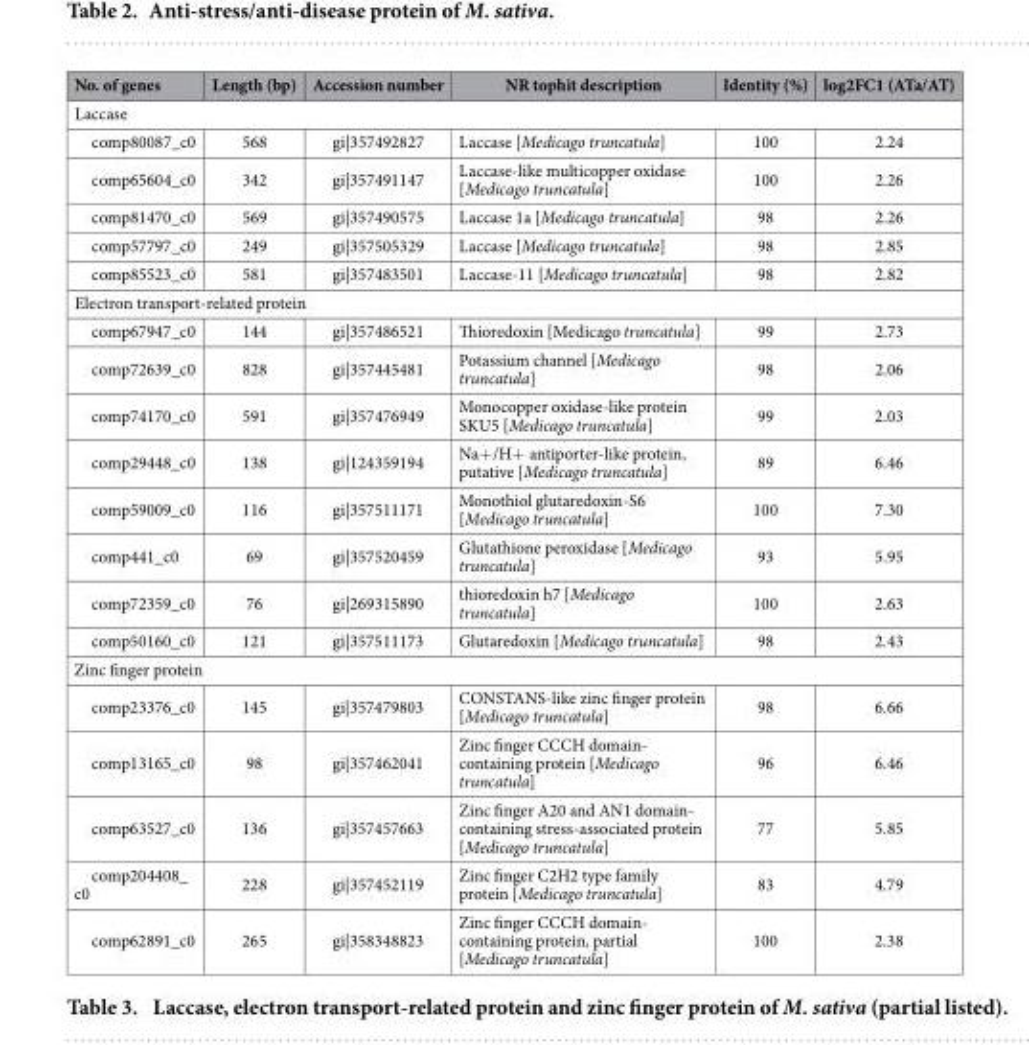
<table><thead><tr><td>No. of genes</td><td>Length (bp)</td><td>Accession number</td><td>NR tophit description</td><td>Identity (%)</td><td>log2FC1 (ATa/AT)</td></tr></thead><tbody><tr><td colspan="6">Laccase</td></tr><tr><td>comp80087_c0</td><td>568</td><td>gi|357492827</td><td>Laccase [Medicago truncatula]</td><td>100</td><td>2.24</td></tr><tr><td>comp65604_c0</td><td>342</td><td>gi|357491147</td><td>Laccase-like multicopper oxidase [Medicago truncatula]</td><td>100</td><td>2.26</td></tr><tr><td>comp81470_c0</td><td>569</td><td>gi|357490575</td><td>Laccase 1a [Medicago truncatula]</td><td>98</td><td>2.26</td></tr><tr><td>comp57797_c0</td><td>249</td><td>gi|357505329</td><td>Laccase [Medicago truncatula]</td><td>98</td><td>2.85</td></tr><tr><td>comp85523_c0</td><td>581</td><td>gi|357483501</td><td>Laccase-11 [Medicago truncatula]</td><td>98</td><td>2.82</td></tr><tr><td colspan="6">Electron transport-related protein</td></tr><tr><td>comp67947_c0</td><td>144</td><td>gi|357486521</td><td>Thioredoxin [Medicago truncatula]</td><td>99</td><td>2.73</td></tr><tr><td>comp72639_c0</td><td>828</td><td>gi|357445481</td><td>Potassium channel [Medicago truncatula]</td><td>98</td><td>2.06</td></tr><tr><td>comp74170_c0</td><td>591</td><td>gi|357476949</td><td>Monocopper oxidase-like protein SKU5 [Medicago truncatula]</td><td>99</td><td>2.03</td></tr><tr><td>comp29448_c0</td><td>138</td><td>gi|124359194</td><td>Na+ /H+ antiporter-like protein, putative [Medicago truncatula]</td><td>89</td><td>6.46</td></tr><tr><td>comp59009_c0</td><td>116</td><td>gi|357511171</td><td>Monothiol glutaredoxin-S6 [Medicago truncatula]</td><td>100</td><td>7.30</td></tr><tr><td>comp441_c0</td><td>69</td><td>gi|357520459</td><td>Glutathione peroxidase [Medicago truncatula]</td><td>93</td><td>5.95</td></tr><tr><td>comp72359_c0</td><td>76</td><td>gi|269315890</td><td>thioredoxin h7 [Medicago truncatula]</td><td>100</td><td>2.63</td></tr><tr><td>comp50160_c0</td><td>121</td><td>gi|357511173</td><td>Glutaredoxin [Medicago truncatula]</td><td>98</td><td>2.43</td></tr><tr><td colspan="6">Zinc finger protein</td></tr><tr><td>comp23376_c0</td><td>145</td><td>gi|357479803</td><td>CONSTANS-like zinc finger protein [Medicago truncatula]</td><td>98</td><td>6.66</td></tr><tr><td>comp13165_c0</td><td>98</td><td>gi|357462041</td><td>Zinc finger CCCH domain- containing protein [Medicago truncatula]</td><td>96</td><td>6.46</td></tr><tr><td>comp63527_c0</td><td>136</td><td>gi|357457663</td><td>Zinc finger A20 and AN1 domain- containing stress-associated protein [Medicago truncatula]</td><td>77</td><td>5.85</td></tr><tr><td>comp204408_ c0</td><td>228</td><td>gi|357452119</td><td>Zinc finger C2H2 type family protein [Medicago truncatula]</td><td>83</td><td>4.79</td></tr><tr><td>comp62891_c0</td><td>265</td><td>gi|358348823</td><td>Zinc finger CCCH domain- containing protein, partial [Medicago truncatula]</td><td>100</td><td>2.38</td></tr></tbody></table>